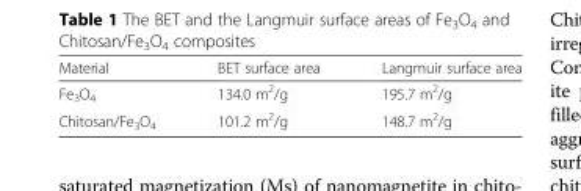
<table><thead><tr><td>Material</td><td>BET surface area</td><td>Langmuir surface area</td></tr></thead><tbody><tr><td>Fe<sub>3</sub>O<sub>4</sub></td><td>134.0 m<sup>2</sup>/g</td><td>195.7 m<sup>2</sup>/g</td></tr><tr><td>Chitosan/Fe<sub>3</sub>O<sub>4</sub></td><td>101.2 m<sup>2</sup>/g</td><td>148.7 m<sup>2</sup>/g</td></tr></tbody></table>